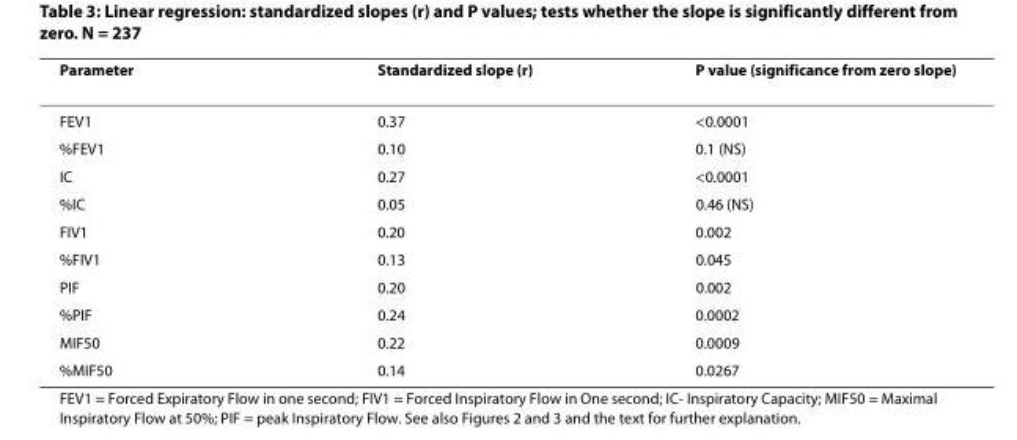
<table><thead><tr><td>Parameter</td><td>Standardized slope (r)</td><td>P value (significance from zero slope)</td></tr></thead><tbody><tr><td>FEV1</td><td>0.37</td><td>&lt;0.0001</td></tr><tr><td>%FEV1</td><td>0.10</td><td>0.1 (NS)</td></tr><tr><td>IC</td><td>0.27</td><td>&lt;0.0001</td></tr><tr><td>%IC</td><td>0.05</td><td>0.46 (NS)</td></tr><tr><td>FIV1</td><td>0.20</td><td>0.002</td></tr><tr><td>%FIV1</td><td>0.13</td><td>0.045</td></tr><tr><td>PIF</td><td>0.20</td><td>0.002</td></tr><tr><td>%PIF</td><td>0.24</td><td>0.0002</td></tr><tr><td>MIF50</td><td>0.22</td><td>0.0009</td></tr><tr><td>%MIF50</td><td>0.14</td><td>0.0267</td></tr></tbody></table>